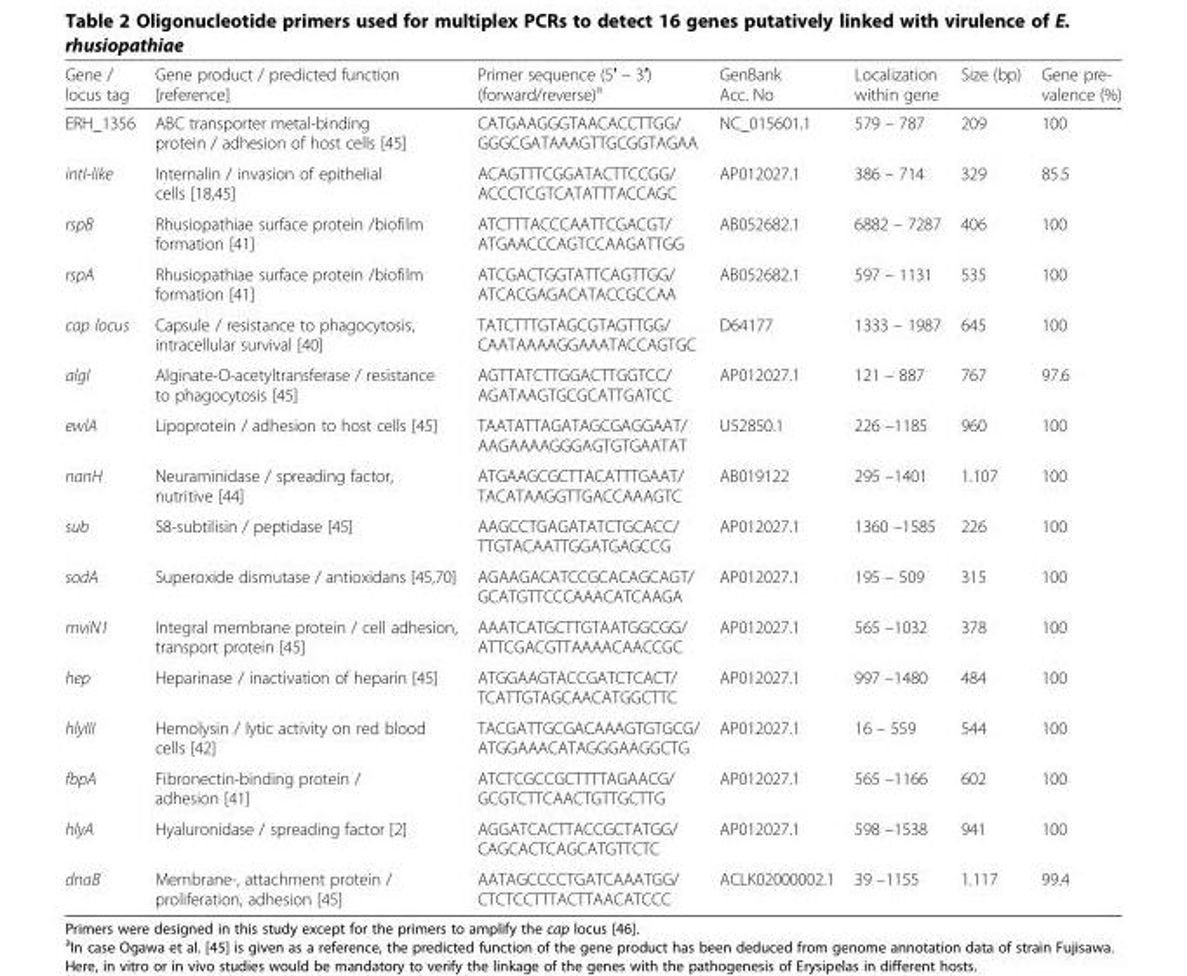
<table><thead><tr><td>Gene / locus tag</td><td>Gene product / predicted function [reference]</td><td>Primer sequence (5′ – 3′) (forward/reverse)<sup>a</sup></td><td>GenBank Acc. No</td><td>Localization within gene</td><td>Size (bp)</td><td>Gene pre- valence (%)</td></tr></thead><tbody><tr><td>ERH_1356</td><td>ABC transporter metal-binding protein / adhesion of host cells [45]</td><td>CATGAAGGGTAACACCTTGG/ GGGCGATAAAGTTGCGGTAGAA</td><td>NC_015601.1</td><td>579 – 787</td><td>209</td><td>100</td></tr><tr><td>intI-like</td><td>Internalin / invasion of epithelial cells [18,45]</td><td>ACAGTTTCGGATACTTCCGG/ ACCCTCGTCATATTTACCAGC</td><td>AP012027.1</td><td>386 – 714</td><td>329</td><td>85.5</td></tr><tr><td>rspB</td><td>Rhusiopathiae surface protein /biofilm formation [41]</td><td>ATCTTTACCCAATTCGACGT/ ATGAACCCAGTCCAAGATTGG</td><td>AB052682.1</td><td>6882 – 7287</td><td>406</td><td>100</td></tr><tr><td>rspA</td><td>Rhusiopathiae surface protein /biofilm formation [41]</td><td>ATCGACTGGTATTCAGTTGG/ ATCACGAGACATACCGCCAA</td><td>AB052682.1</td><td>597 – 1131</td><td>535</td><td>100</td></tr><tr><td>cap locus</td><td>Capsule / resistance to phagocytosis, intracellular survival [40]</td><td>TATCTTTGTAGCGTAGTTGG/ CAATAAAAGGAAATACCAGTGC</td><td>D64177</td><td>1333 – 1987</td><td>645</td><td>100</td></tr><tr><td>algI</td><td>Alginate-O-acetyltransferase / resistance to phagocytosis [45]</td><td>AGTTATCTTGGACTTGGTCC/ AGATAAGTGCGCATTGATCC</td><td>AP012027.1</td><td>121 – 887</td><td>767</td><td>97.6</td></tr><tr><td>ewlA</td><td>Lipoprotein / adhesion to host cells [45]</td><td>TAATATTAGATAGCGAGGAAT/ AAGAAAAGGGAGTGTGAATAT</td><td>U52850.1</td><td>226 –1185</td><td>960</td><td>100</td></tr><tr><td>nanH</td><td>Neuraminidase / spreading factor, nutritive [44]</td><td>ATGAAGCGCTTACATTTGAAT/ TACATAAGGTTGACCAAAGTC</td><td>AB019122</td><td>295 –1401</td><td>1.107</td><td>100</td></tr><tr><td>sub</td><td>S8-subtilisin / peptidase [45]</td><td>AAGCCTGAGATATCTGCACC/ TTGTACAATTGGATGAGCCG</td><td>AP012027.1</td><td>1360 –1585</td><td>226</td><td>100</td></tr><tr><td>sodA</td><td>Superoxide dismutase / antioxidans [45,70]</td><td>AGAAGACATCCGCACAGCAGT/ GCATGTTCCCAAACATCAAGA</td><td>AP012027.1</td><td>195 – 509</td><td>315</td><td>100</td></tr><tr><td>mviN1</td><td>Integral membrane protein / cell adhesion, transport protein [45]</td><td>AAATCATGCTTGTAATGGCGG/ ATTCGACGTTAAAACAACCGC</td><td>AP012027.1</td><td>565 –1032</td><td>378</td><td>100</td></tr><tr><td>hep</td><td>Heparinase / inactivation of heparin [45]</td><td>ATGGAAGTACCGATCTCACT/ TCATTGTAGCAACATGGCTTC</td><td>AP012027.1</td><td>997 –1480</td><td>484</td><td>100</td></tr><tr><td>hlyIII</td><td>Hemolysin / lytic activity on red blood cells [42]</td><td>TACGATTGCGACAAAGTGTGCG/ ATGGAAACATAGGGAAGGCTG</td><td>AP012027.1</td><td>16 – 559</td><td>544</td><td>100</td></tr><tr><td>fbpA</td><td>Fibronectin-binding protein / adhesion [41]</td><td>ATCTCGCCGCTTTTAGAACG/ GCGTCTTCAACTGTTGCTTG</td><td>AP012027.1</td><td>565 –1166</td><td>602</td><td>100</td></tr><tr><td>hlyA</td><td>Hyaluronidase / spreading factor [2]</td><td>AGGATCACTTACCGCTATGG/ CAGCACTCAGCATGTTCTC</td><td>AP012027.1</td><td>598 –1538</td><td>941</td><td>100</td></tr><tr><td>dnaB</td><td>Membrane-, attachment protein / proliferation, adhesion [45]</td><td>AATAGCCCCTGATCAAATGG/ CTCTCCTTTACTTAACATCCC</td><td>ACLK02000002.1</td><td>39 –1155</td><td>1.117</td><td>99.4</td></tr></tbody></table>